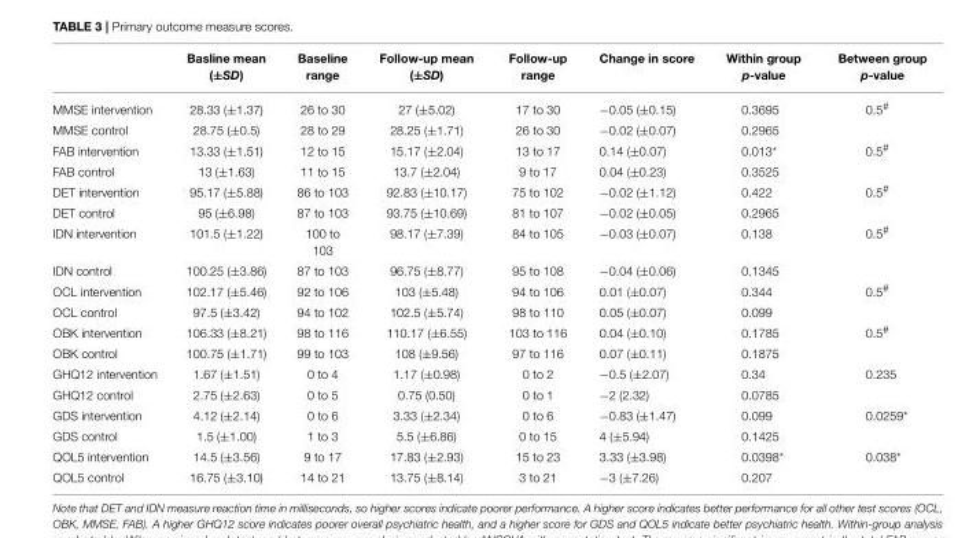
<table><thead><tr><td></td><td>Basline mean (±SD)</td><td>Baseline range</td><td>Follow-up mean (±SD)</td><td>Follow-up range</td><td>Change in score</td><td>Within group p-value</td><td>Between group p-value</td></tr></thead><tbody><tr><td>MMSE intervention</td><td>28.33 (±1.37)</td><td>26 to 30</td><td>27 (±5.02)</td><td>17 to 30</td><td>−0.05 (±0.15)</td><td>0.3695</td><td>0.5<sup>#</sup></td></tr><tr><td>MMSE control</td><td>28.75 (±0.5)</td><td>28 to 29</td><td>28.25 (±1.71)</td><td>26 to 30</td><td>−0.02 (±0.07)</td><td>0.2965</td><td></td></tr><tr><td>FAB intervention</td><td>13.33 (±1.51)</td><td>12 to 15</td><td>15.17 (±2.04)</td><td>13 to 17</td><td>0.14 (±0.07)</td><td>0.013*</td><td>0.5<sup>#</sup></td></tr><tr><td>FAB control</td><td>13 (±1.63)</td><td>11 to 15</td><td>13.7 (±2.04)</td><td>9 to 17</td><td>0.04 (±0.23)</td><td>0.3525</td><td></td></tr><tr><td>DET intervention</td><td>95.17 (±5.88)</td><td>86 to 103</td><td>92.83 (±10.17)</td><td>75 to 102</td><td>−0.02 (±1.12)</td><td>0.422</td><td>0.5<sup>#</sup></td></tr><tr><td>DET control</td><td>95 (±6.98)</td><td>87 to 103</td><td>93.75 (±10.69)</td><td>81 to 107</td><td>−0.02 (±0.05)</td><td>0.2965</td><td></td></tr><tr><td>IDN intervention</td><td>101.5 (±1.22)</td><td>100 to 103</td><td>98.17 (±7.39)</td><td>84 to 105</td><td>−0.03 (±0.07)</td><td>0.138</td><td>0.5<sup>#</sup></td></tr><tr><td>IDN control</td><td>100.25 (±3.86)</td><td>87 to 103</td><td>96.75 (±8.77)</td><td>95 to 108</td><td>−0.04 (±0.06)</td><td>0.1345</td><td></td></tr><tr><td>OCL intervention</td><td>102.17 (±5.46)</td><td>92 to 106</td><td>103 (±5.48)</td><td>94 to 106</td><td>0.01 (±0.07)</td><td>0.344</td><td>0.5<sup>#</sup></td></tr><tr><td>OCL control</td><td>97.5 (±3.42)</td><td>94 to 102</td><td>102.5 (±5.74)</td><td>98 to 110</td><td>0.05 (±0.07)</td><td>0.099</td><td></td></tr><tr><td>OBK intervention</td><td>106.33 (±8.21)</td><td>98 to 116</td><td>110.17 (±6.55)</td><td>103 to 116</td><td>0.04 (±0.10)</td><td>0.1785</td><td>0.5<sup>#</sup></td></tr><tr><td>OBK control</td><td>100.75 (±1.71)</td><td>99 to 103</td><td>108 (±9.56)</td><td>97 to 116</td><td>0.07 (±0.11)</td><td>0.1875</td><td></td></tr><tr><td>GHQ12 intervention</td><td>1.67 (±1.51)</td><td>0 to 4</td><td>1.17 (±0.98)</td><td>0 to 2</td><td>−0.5 (±2.07)</td><td>0.34</td><td>0.235</td></tr><tr><td>GHQ12 control</td><td>2.75 (±2.63)</td><td>0 to 5</td><td>0.75 (0.50)</td><td>0 to 1</td><td>−2 (2.32)</td><td>0.0785</td><td></td></tr><tr><td>GDS intervention</td><td>4.12 (±2.14)</td><td>0 to 6</td><td>3.33 (±2.34)</td><td>0 to 6</td><td>−0.83 (±1.47)</td><td>0.099</td><td>0.0259*</td></tr><tr><td>GDS control</td><td>1.5 (±1.00)</td><td>1 to 3</td><td>5.5 (±6.86)</td><td>0 to 15</td><td>4 (±5.94)</td><td>0.1425</td><td></td></tr><tr><td>QOL5 intervention</td><td>14.5 (±3.56)</td><td>9 to 17</td><td>17.83 (±2.93)</td><td>15 to 23</td><td>3.33 (±3.98)</td><td>0.0398*</td><td>0.038*</td></tr><tr><td>QOL5 control</td><td>16.75 (±3.10)</td><td>14 to 21</td><td>13.75 (±8.14)</td><td>3 to 21</td><td>−3 (±7.26)</td><td>0.207</td><td></td></tr></tbody></table>